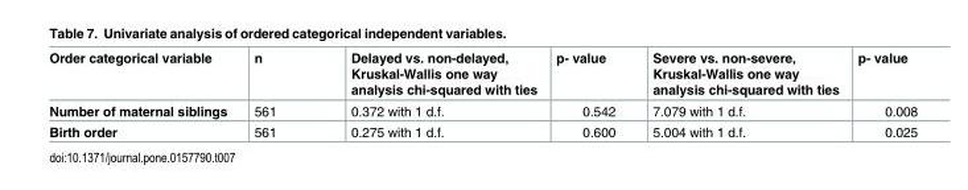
<table><thead><tr><td>Order categorical variable</td><td>n</td><td>Delayed vs. non-delayed, Kruskal-Wallis one way analysis chi-squared with ties</td><td>p- value</td><td>Severe vs. non-severe, Kruskal-Wallis one way analysis chi-squared with ties</td><td>p- value</td></tr></thead><tbody><tr><td>Number of maternal siblings</td><td>561</td><td>0.372 with 1 d.f.</td><td>0.542</td><td>7.079 with 1 d.f.</td><td>0.008</td></tr><tr><td>Birth order</td><td>561</td><td>0.275 with 1 d.f.</td><td>0.600</td><td>5.004 with 1 d.f.</td><td>0.025</td></tr></tbody></table>